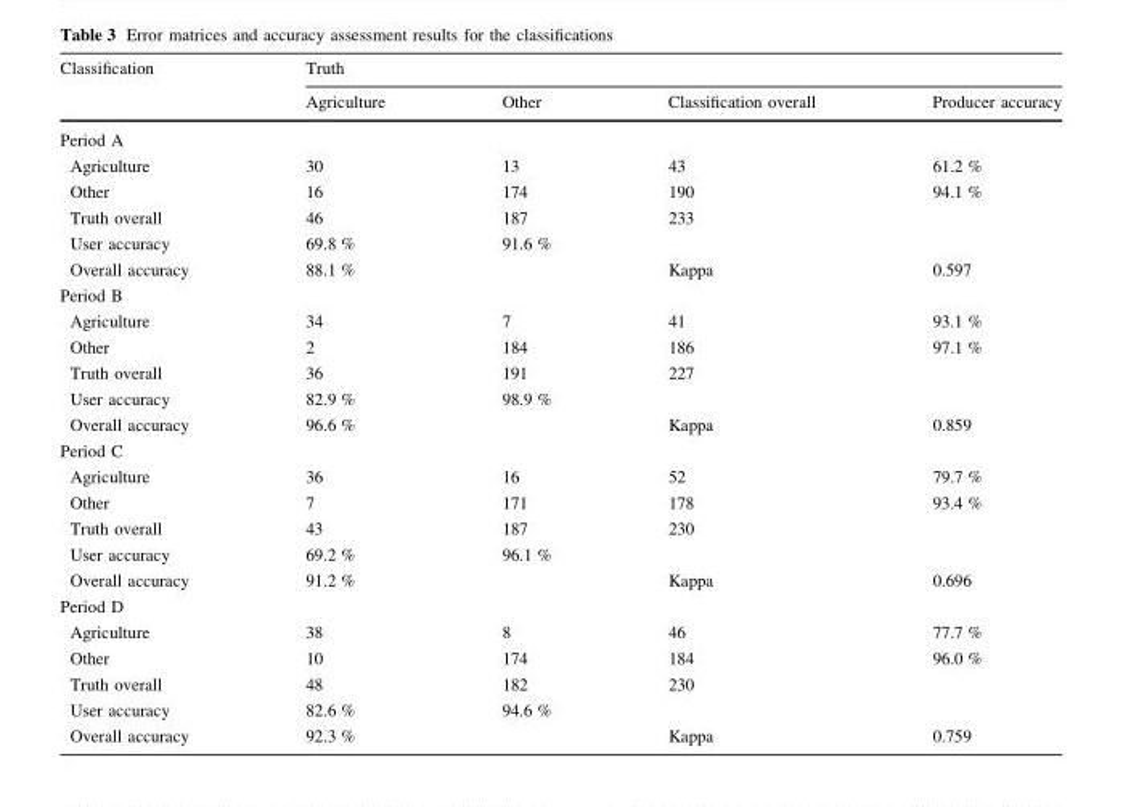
<table><thead><tr><td rowspan="2">Classification</td><td colspan="4">Truth</td></tr><tr><td>Agriculture</td><td>Other</td><td>Classification overall</td><td>Producer accuracy</td></tr></thead><tbody><tr><td colspan="5">Period A</td></tr><tr><td>Agriculture</td><td>30</td><td>13</td><td>43</td><td>61.2 %</td></tr><tr><td>Other</td><td>16</td><td>174</td><td>190</td><td>94.1 %</td></tr><tr><td>Truth overall</td><td>46</td><td>187</td><td>233</td><td></td></tr><tr><td>User accuracy</td><td>69.8 %</td><td>91.6 %</td><td></td><td></td></tr><tr><td>Overall accuracy</td><td>88.1 %</td><td></td><td>Kappa</td><td>0.597</td></tr><tr><td colspan="5">Period B</td></tr><tr><td>Agriculture</td><td>34</td><td>7</td><td>41</td><td>93.1 %</td></tr><tr><td>Other</td><td>2</td><td>184</td><td>186</td><td>97.1 %</td></tr><tr><td>Truth overall</td><td>36</td><td>191</td><td>227</td><td></td></tr><tr><td>User accuracy</td><td>82.9 %</td><td>98.9 %</td><td></td><td></td></tr><tr><td>Overall accuracy</td><td>96.6 %</td><td></td><td>Kappa</td><td>0.859</td></tr><tr><td colspan="5">Period C</td></tr><tr><td>Agriculture</td><td>36</td><td>16</td><td>52</td><td>79.7 %</td></tr><tr><td>Other</td><td>7</td><td>171</td><td>178</td><td>93.4 %</td></tr><tr><td>Truth overall</td><td>43</td><td>187</td><td>230</td><td></td></tr><tr><td>User accuracy</td><td>69.2 %</td><td>96.1 %</td><td></td><td></td></tr><tr><td>Overall accuracy</td><td>91.2 %</td><td></td><td>Kappa</td><td>0.696</td></tr><tr><td colspan="5">Period D</td></tr><tr><td>Agriculture</td><td>38</td><td>8</td><td>46</td><td>77.7 %</td></tr><tr><td>Other</td><td>10</td><td>174</td><td>184</td><td>96.0 %</td></tr><tr><td>Truth overall</td><td>48</td><td>182</td><td>230</td><td></td></tr><tr><td>User accuracy</td><td>82.6 %</td><td>94.6 %</td><td></td><td></td></tr><tr><td>Overall accuracy</td><td>92.3 %</td><td></td><td>Kappa</td><td>0.759</td></tr></tbody></table>